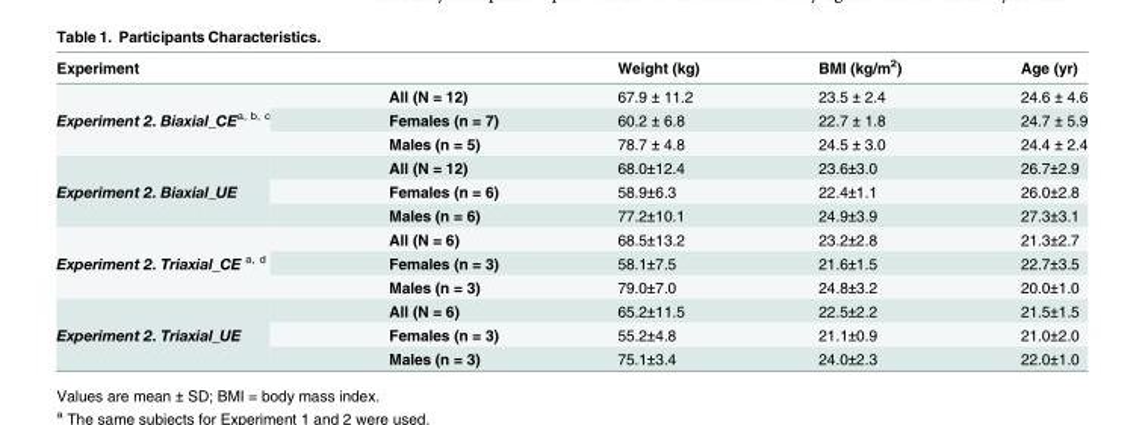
<table><thead><tr><td>Experiment</td><td></td><td>Weight (kg)</td><td>BMI (kg/m<sup>2</sup>)</td><td>Age (yr)</td></tr></thead><tbody><tr><td rowspan="3">Experiment 2. Biaxial_CE<sup>a, b, c</sup></td><td>All (N = 12)</td><td>67.9 ± 11.2</td><td>23.5 ± 2.4</td><td>24.6 ± 4.6</td></tr><tr><td>Females (n = 7)</td><td>60.2 ± 6.8</td><td>22.7 ± 1.8</td><td>24.7 ± 5.9</td></tr><tr><td>Males (n = 5)</td><td>78.7 ± 4.8</td><td>24.5 ± 3.0</td><td>24.4 ± 2.4</td></tr><tr><td rowspan="3">Experiment 2. Biaxial_UE</td><td>All (N = 12)</td><td>68.0±12.4</td><td>23.6±3.0</td><td>26.7±2.9</td></tr><tr><td>Females (n = 6)</td><td>58.9±6.3</td><td>22.4±1.1</td><td>26.0±2.8</td></tr><tr><td>Males (n = 6)</td><td>77.2±10.1</td><td>24.9±3.9</td><td>27.3±3.1</td></tr><tr><td rowspan="3">Experiment 2. Triaxial_CE <sup>a, d</sup></td><td>All (N = 6)</td><td>68.5±13.2</td><td>23.2±2.8</td><td>21.3±2.7</td></tr><tr><td>Females (n = 3)</td><td>58.1±7.5</td><td>21.6±1.5</td><td>22.7±3.5</td></tr><tr><td>Males (n = 3)</td><td>79.0±7.0</td><td>24.8±3.2</td><td>20.0±1.0</td></tr><tr><td rowspan="3">Experiment 2. Triaxial_UE</td><td>All (N = 6)</td><td>65.2±11.5</td><td>22.5±2.2</td><td>21.5±1.5</td></tr><tr><td>Females (n = 3)</td><td>55.2±4.8</td><td>21.1±0.9</td><td>21.0±2.0</td></tr><tr><td>Males (n = 3)</td><td>75.1±3.4</td><td>24.0±2.3</td><td>22.0±1.0</td></tr></tbody></table>